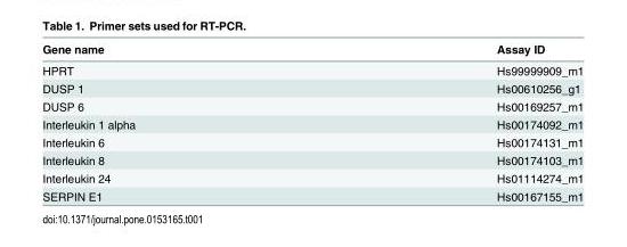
<table><thead><tr><td>Gene name</td><td>Assay ID</td></tr></thead><tbody><tr><td>HPRT</td><td>Hs99999909_m1</td></tr><tr><td>DUSP 1</td><td>Hs00610256_g1</td></tr><tr><td>DUSP 6</td><td>Hs00169257_m1</td></tr><tr><td>Interleukin 1 alpha</td><td>Hs00174092_m1</td></tr><tr><td>Interleukin 6</td><td>Hs00174131_m1</td></tr><tr><td>Interleukin 8</td><td>Hs00174103_m1</td></tr><tr><td>Interleukin 24</td><td>Hs01114274_m1</td></tr><tr><td>SERPIN E1</td><td>Hs00167155_m1</td></tr></tbody></table>